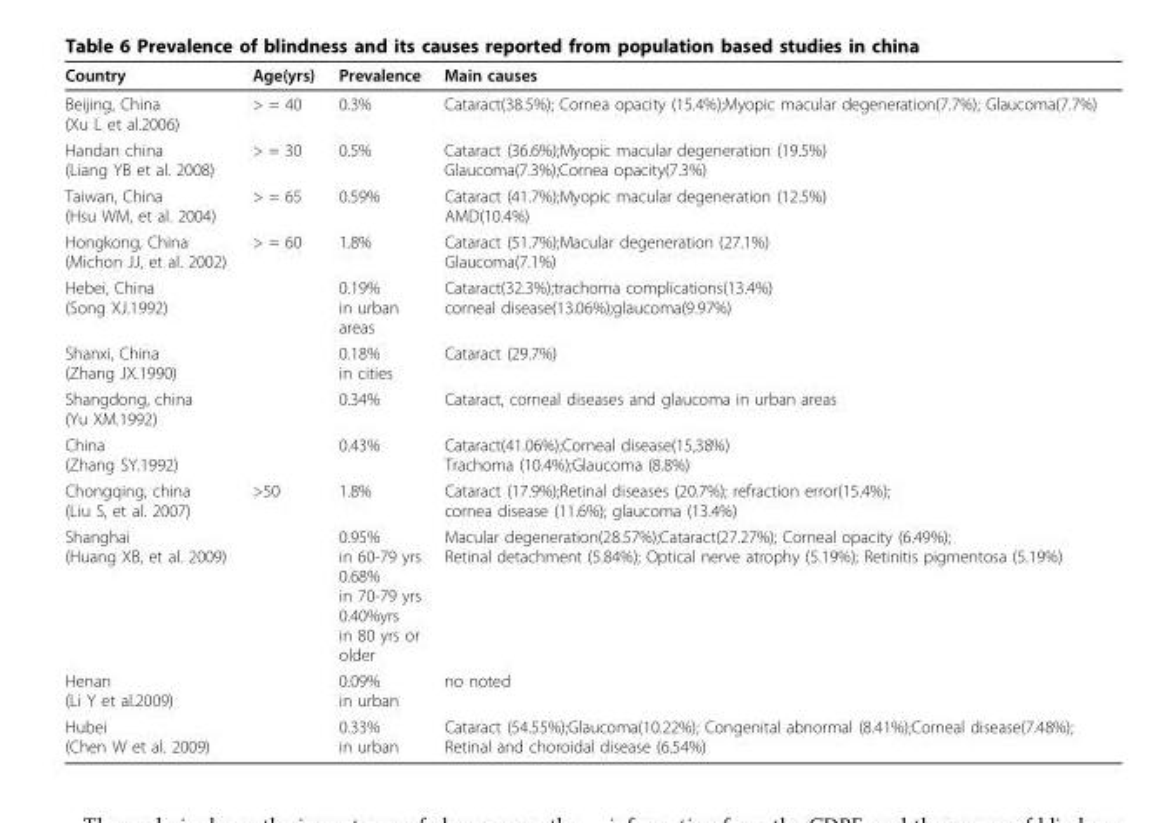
<table><thead><tr><td>Country</td><td>Age(yrs)</td><td>Prevalence</td><td>Main causes</td></tr></thead><tbody><tr><td>Beijing, China (Xu L et al.2006)</td><td>&gt; = 40</td><td>0.3%</td><td>Cataract(38.5%); Cornea opacity (15.4%);Myopic macular degeneration(7.7%); Glaucoma(7.7%)</td></tr><tr><td>Handan china (Liang YB et al. 2008)</td><td>&gt; = 30</td><td>0.5%</td><td>Cataract (36.6%);Myopic macular degeneration (19.5%) Glaucoma(7.3%);Cornea opacity(7.3%)</td></tr><tr><td>Taiwan, China (Hsu WM, et al. 2004)</td><td>&gt; = 65</td><td>0.59%</td><td>Cataract (41.7%);Myopic macular degeneration (12.5%) AMD(10.4%)</td></tr><tr><td>Hongkong, China (Michon JJ, et al. 2002)</td><td>&gt; = 60</td><td>1.8%</td><td>Cataract (51.7%);Macular degeneration (27.1%) Glaucoma(7.1%)</td></tr><tr><td>Hebei, China (Song XJ.1992)</td><td></td><td>0.19% in urban areas</td><td>Cataract(32.3%);trachoma complications(13.4%) corneal disease(13.06%);glaucoma(9.97%)</td></tr><tr><td>Shanxi, China (Zhang JX.1990)</td><td></td><td>0.18% in cities</td><td>Cataract (29.7%)</td></tr><tr><td>Shangdong, china (Yu XM.1992)</td><td></td><td>0.34%</td><td>Cataract, corneal diseases and glaucoma in urban areas</td></tr><tr><td>China (Zhang SY.1992)</td><td></td><td>0.43%</td><td>Cataract(41.06%);Corneal disease(15,38%) Trachoma (10.4%);Glaucoma (8.8%)</td></tr><tr><td>Chongqing, china (Liu S, et al. 2007)</td><td>&gt;50</td><td>1.8%</td><td>Cataract (17.9%);Retinal diseases (20.7%); refraction error(15.4%); cornea disease (11.6%); glaucoma (13.4%)</td></tr><tr><td>Shanghai (Huang XB, et al. 2009)</td><td></td><td>0.95% in 60-79 yrs 0.68% in 70-79 yrs 0.40%yrs in 80 yrs or older</td><td>Macular degeneration(28.57%);Cataract(27.27%); Corneal opacity (6.49%); Retinal detachment (5.84%); Optical nerve atrophy (5.19%); Retinitis pigmentosa (5.19%)</td></tr><tr><td>Henan (Li Y et al.2009)</td><td></td><td>0.09% in urban</td><td>no noted</td></tr><tr><td>Hubei (Chen W et al. 2009)</td><td></td><td>0.33% in urban</td><td>Cataract (54.55%);Glaucoma(10.22%); Congenital abnormal (8.41%);Corneal disease(7.48%); Retinal and choroidal disease (6.54%)</td></tr></tbody></table>